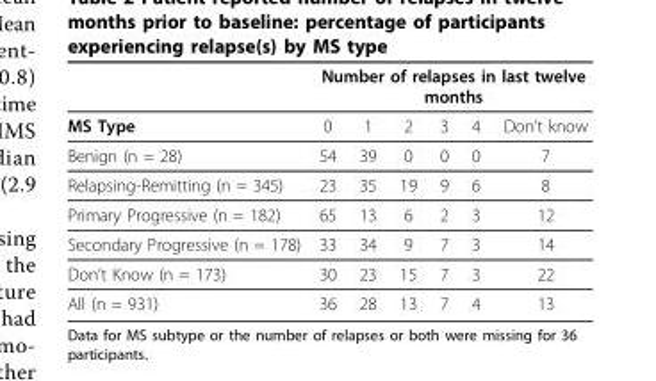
<table><thead><tr><td rowspan="2">MS Type</td><td colspan="6">Number of relapses in last twelve months</td></tr><tr><td>0</td><td>1</td><td>2</td><td>3</td><td>4</td><td>Don’t know</td></tr></thead><tbody><tr><td>Benign (n = 28)</td><td>54</td><td>39</td><td>0</td><td>0</td><td>0</td><td>7</td></tr><tr><td>Relapsing-Remitting (n = 345)</td><td>23</td><td>35</td><td>19</td><td>9</td><td>6</td><td>8</td></tr><tr><td>Primary Progressive (n = 182)</td><td>65</td><td>13</td><td>6</td><td>2</td><td>3</td><td>12</td></tr><tr><td>Secondary Progressive (n = 178)</td><td>33</td><td>34</td><td>9</td><td>7</td><td>3</td><td>14</td></tr><tr><td>Don’t Know (n = 173)</td><td>30</td><td>23</td><td>15</td><td>7</td><td>3</td><td>22</td></tr><tr><td>All (n = 931)</td><td>36</td><td>28</td><td>13</td><td>7</td><td>4</td><td>13</td></tr></tbody></table>